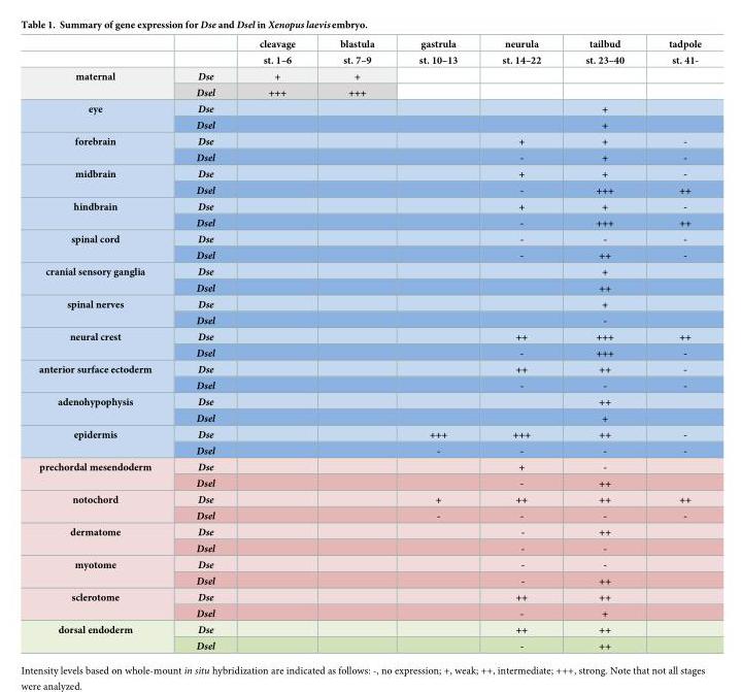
<table><thead><tr><td rowspan="2"></td><td rowspan="2"></td><td rowspan="2">cleavage st. 1–6</td><td rowspan="2">blastula st. 7–9</td><td rowspan="2">gastrula st. 10–13</td><td rowspan="2">neurula st. 14–22</td><td rowspan="2">tailbud st. 23–40</td><td rowspan="2">tadpole st. 41-</td></tr><tr></tr></thead><tbody><tr><td rowspan="2">maternal</td><td>Dse</td><td>+</td><td>+</td><td></td><td></td><td></td><td></td></tr><tr><td>Dsel</td><td>+++</td><td>+++</td><td></td><td></td><td></td><td></td></tr><tr><td rowspan="2">eye</td><td>Dse</td><td></td><td></td><td></td><td></td><td>+</td><td></td></tr><tr><td>Dsel</td><td></td><td></td><td></td><td></td><td>+</td><td></td></tr><tr><td rowspan="2">forebrain</td><td>Dse</td><td></td><td></td><td></td><td>+</td><td>+</td><td>-</td></tr><tr><td>Dsel</td><td></td><td></td><td></td><td>-</td><td>+</td><td>-</td></tr><tr><td rowspan="2">midbrain</td><td>Dse</td><td></td><td></td><td></td><td>+</td><td>+</td><td>-</td></tr><tr><td>Dsel</td><td></td><td></td><td></td><td>-</td><td>+++</td><td>++</td></tr><tr><td rowspan="2">hindbrain</td><td>Dse</td><td></td><td></td><td></td><td>+</td><td>+</td><td>-</td></tr><tr><td>Dsel</td><td></td><td></td><td></td><td>-</td><td>+++</td><td>++</td></tr><tr><td rowspan="2">spinal cord</td><td>Dse</td><td></td><td></td><td></td><td>-</td><td>-</td><td>-</td></tr><tr><td>Dsel</td><td></td><td></td><td></td><td>-</td><td>++</td><td>-</td></tr><tr><td rowspan="2">cranial sensory ganglia</td><td>Dse</td><td></td><td></td><td></td><td></td><td>+</td><td></td></tr><tr><td>Dsel</td><td></td><td></td><td></td><td></td><td>++</td><td></td></tr><tr><td rowspan="2">spinal nerves</td><td>Dse</td><td></td><td></td><td></td><td></td><td>+</td><td></td></tr><tr><td>Dsel</td><td></td><td></td><td></td><td></td><td>-</td><td></td></tr><tr><td rowspan="2">neural crest</td><td>Dse</td><td></td><td></td><td></td><td>++</td><td>+++</td><td>++</td></tr><tr><td>Dsel</td><td></td><td></td><td></td><td>-</td><td>+++</td><td>-</td></tr><tr><td rowspan="2">anterior surface ectoderm</td><td>Dse</td><td></td><td></td><td></td><td>++</td><td>++</td><td>-</td></tr><tr><td>Dsel</td><td></td><td></td><td></td><td>-</td><td>-</td><td>-</td></tr><tr><td rowspan="2">adenohypophysis</td><td>Dse</td><td></td><td></td><td></td><td></td><td>++</td><td></td></tr><tr><td>Dsel</td><td></td><td></td><td></td><td></td><td>+</td><td></td></tr><tr><td rowspan="2">epidermis</td><td>Dse</td><td></td><td></td><td>+++</td><td>+++</td><td>++</td><td>-</td></tr><tr><td>Dsel</td><td></td><td></td><td>-</td><td>-</td><td>-</td><td>-</td></tr><tr><td rowspan="2">prechordal mesendoderm</td><td>Dse</td><td></td><td></td><td></td><td>+</td><td>-</td><td></td></tr><tr><td>Dsel</td><td></td><td></td><td></td><td>-</td><td>++</td><td></td></tr><tr><td rowspan="2">notochord</td><td>Dse</td><td></td><td></td><td>+</td><td>++</td><td>++</td><td>++</td></tr><tr><td>Dsel</td><td></td><td></td><td>-</td><td>-</td><td>-</td><td>-</td></tr><tr><td rowspan="2">dermatome</td><td>Dse</td><td></td><td></td><td></td><td>-</td><td>++</td><td></td></tr><tr><td>Dsel</td><td></td><td></td><td></td><td>-</td><td>-</td><td></td></tr><tr><td rowspan="2">myotome</td><td>Dse</td><td></td><td></td><td></td><td>-</td><td>-</td><td></td></tr><tr><td>Dsel</td><td></td><td></td><td></td><td>-</td><td>++</td><td></td></tr><tr><td rowspan="2">sclerotome</td><td>Dse</td><td></td><td></td><td></td><td>++</td><td>++</td><td></td></tr><tr><td>Dsel</td><td></td><td></td><td></td><td>-</td><td>+</td><td></td></tr><tr><td rowspan="2">dorsal endoderm</td><td>Dse</td><td></td><td></td><td></td><td>++</td><td>++</td><td></td></tr><tr><td>Dsel</td><td></td><td></td><td></td><td>-</td><td>++</td><td></td></tr></tbody></table>